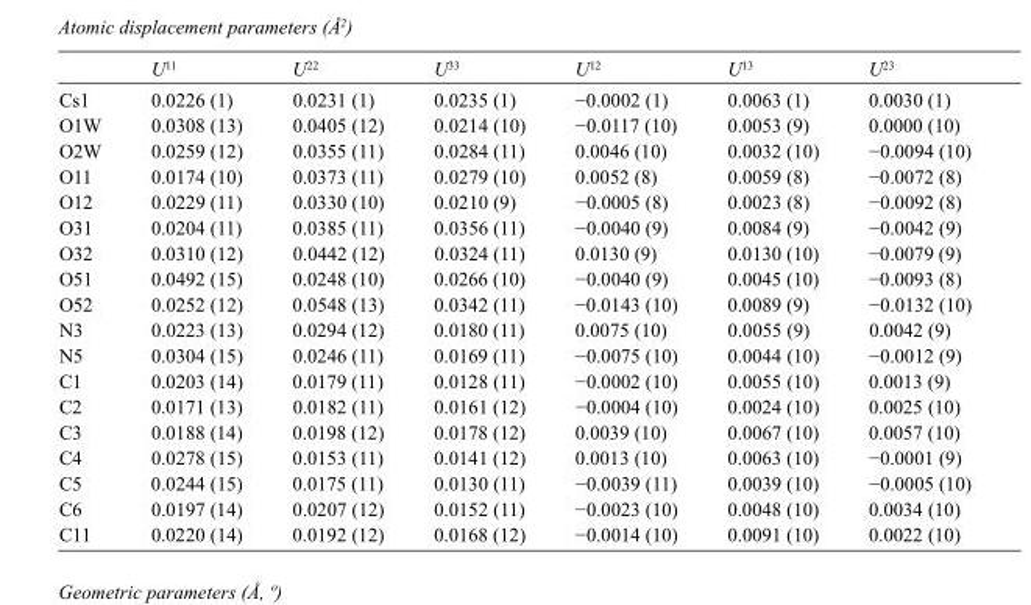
<table><thead><tr><td></td><td>U<sup>11</sup></td><td>U<sup>22</sup></td><td>U<sup>33</sup></td><td>U<sup>12</sup></td><td>U<sup>13</sup></td><td>U<sup>23</sup></td></tr></thead><tbody><tr><td>Cs1</td><td>0.0226 (1)</td><td>0.0231 (1)</td><td>0.0235 (1)</td><td>−0.0002 (1)</td><td>0.0063 (1)</td><td>0.0030 (1)</td></tr><tr><td>O1W</td><td>0.0308 (13)</td><td>0.0405 (12)</td><td>0.0214 (10)</td><td>−0.0117 (10)</td><td>0.0053 (9)</td><td>0.0000 (10)</td></tr><tr><td>O2W</td><td>0.0259 (12)</td><td>0.0355 (11)</td><td>0.0284 (11)</td><td>0.0046 (10)</td><td>0.0032 (10)</td><td>−0.0094 (10)</td></tr><tr><td>O11</td><td>0.0174 (10)</td><td>0.0373 (11)</td><td>0.0279 (10)</td><td>0.0052 (8)</td><td>0.0059 (8)</td><td>−0.0072 (8)</td></tr><tr><td>O12</td><td>0.0229 (11)</td><td>0.0330 (10)</td><td>0.0210 (9)</td><td>−0.0005 (8)</td><td>0.0023 (8)</td><td>−0.0092 (8)</td></tr><tr><td>O31</td><td>0.0204 (11)</td><td>0.0385 (11)</td><td>0.0356 (11)</td><td>−0.0040 (9)</td><td>0.0084 (9)</td><td>−0.0042 (9)</td></tr><tr><td>O32</td><td>0.0310 (12)</td><td>0.0442 (12)</td><td>0.0324 (11)</td><td>0.0130 (9)</td><td>0.0130 (10)</td><td>−0.0079 (9)</td></tr><tr><td>O51</td><td>0.0492 (15)</td><td>0.0248 (10)</td><td>0.0266 (10)</td><td>−0.0040 (9)</td><td>0.0045 (10)</td><td>−0.0093 (8)</td></tr><tr><td>O52</td><td>0.0252 (12)</td><td>0.0548 (13)</td><td>0.0342 (11)</td><td>−0.0143 (10)</td><td>0.0089 (9)</td><td>−0.0132 (10)</td></tr><tr><td>N3</td><td>0.0223 (13)</td><td>0.0294 (12)</td><td>0.0180 (11)</td><td>0.0075 (10)</td><td>0.0055 (9)</td><td>0.0042 (9)</td></tr><tr><td>N5</td><td>0.0304 (15)</td><td>0.0246 (11)</td><td>0.0169 (11)</td><td>−0.0075 (10)</td><td>0.0044 (10)</td><td>−0.0012 (9)</td></tr><tr><td>C1</td><td>0.0203 (14)</td><td>0.0179 (11)</td><td>0.0128 (11)</td><td>−0.0002 (10)</td><td>0.0055 (10)</td><td>0.0013 (9)</td></tr><tr><td>C2</td><td>0.0171 (13)</td><td>0.0182 (11)</td><td>0.0161 (12)</td><td>−0.0004 (10)</td><td>0.0024 (10)</td><td>0.0025 (10)</td></tr><tr><td>C3</td><td>0.0188 (14)</td><td>0.0198 (12)</td><td>0.0178 (12)</td><td>0.0039 (10)</td><td>0.0067 (10)</td><td>0.0057 (10)</td></tr><tr><td>C4</td><td>0.0278 (15)</td><td>0.0153 (11)</td><td>0.0141 (12)</td><td>0.0013 (10)</td><td>0.0063 (10)</td><td>−0.0001 (9)</td></tr><tr><td>C5</td><td>0.0244 (15)</td><td>0.0175 (11)</td><td>0.0130 (11)</td><td>−0.0039 (11)</td><td>0.0039 (10)</td><td>−0.0005 (10)</td></tr><tr><td>C6</td><td>0.0197 (14)</td><td>0.0207 (12)</td><td>0.0152 (11)</td><td>−0.0023 (10)</td><td>0.0048 (10)</td><td>0.0034 (10)</td></tr><tr><td>C11</td><td>0.0220 (14)</td><td>0.0192 (12)</td><td>0.0168 (12)</td><td>−0.0014 (10)</td><td>0.0091 (10)</td><td>0.0022 (10)</td></tr></tbody></table>